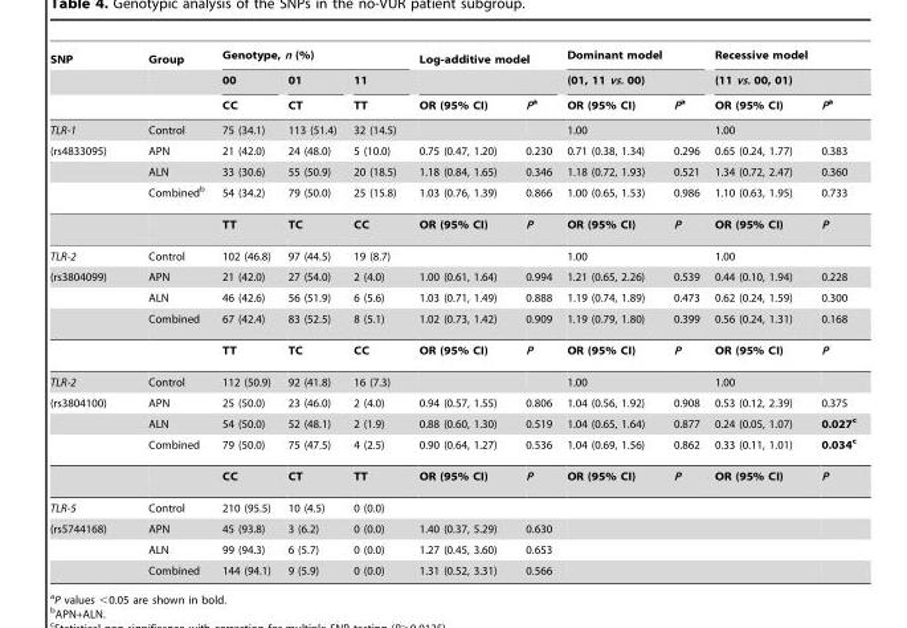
<table><thead><tr><td rowspan="3">SNP</td><td rowspan="3">Group</td><td colspan="3">Genotype, n (%)</td><td colspan="2">Log-additive model</td><td rowspan="2" colspan="2">Dominant model (01, 11 vs. 00)</td><td rowspan="2" colspan="2">Recessive model (11 vs. 00, 01)</td></tr><tr><td rowspan="2">00 CC</td><td rowspan="2">01 CT</td><td rowspan="2">11 TT</td><td rowspan="2">OR (95% CI)</td><td rowspan="2">Pa</td></tr><tr><td>OR (95% CI)</td><td>Pa</td><td>OR (95% CI)</td><td>Pa</td></tr></thead><tbody><tr><td>TLR-1</td><td>Control</td><td>75 (34.1)</td><td>113 (51.4)</td><td>32 (14.5)</td><td></td><td></td><td>1.00</td><td></td><td>1.00</td><td></td></tr><tr><td rowspan="4">(rs4833095)</td><td>APN</td><td>21 (42.0)</td><td>24 (48.0)</td><td>5 (10.0)</td><td>0.75 (0.47, 1.20)</td><td>0.230</td><td>0.71 (0.38, 1.34)</td><td>0.296</td><td>0.65 (0.24, 1.77)</td><td>0.383</td></tr><tr><td>ALN</td><td>33 (30.6)</td><td>55 (50.9)</td><td>20 (18.5)</td><td>1.18 (0.84, 1.65)</td><td>0.346</td><td>1.18 (0.72, 1.93)</td><td>0.521</td><td>1.34 (0.72, 2.47)</td><td>0.360</td></tr><tr><td>Combined<sup>b</sup></td><td>54 (34.2)</td><td>79 (50.0)</td><td>25 (15.8)</td><td>1.03 (0.76, 1.39)</td><td>0.866</td><td>1.00 (0.65, 1.53)</td><td>0.986</td><td>1.10 (0.63, 1.95)</td><td>0.733</td></tr><tr><td></td><td>TT</td><td>TC</td><td>CC</td><td>OR (95% CI)</td><td>P</td><td>OR (95% CI)</td><td>P</td><td>OR (95% CI)</td><td>P</td></tr><tr><td>TLR-2</td><td>Control</td><td>102 (46.8)</td><td>97 (44.5)</td><td>19 (8.7)</td><td></td><td></td><td>1.00</td><td></td><td>1.00</td><td></td></tr><tr><td rowspan="4">(rs3804099)</td><td>APN</td><td>21 (42.0)</td><td>27 (54.0)</td><td>2 (4.0)</td><td>1.00 (0.61, 1.64)</td><td>0.994</td><td>1.21 (0.65, 2.26)</td><td>0.539</td><td>0.44 (0.10, 1.94)</td><td>0.228</td></tr><tr><td>ALN</td><td>46 (42.6)</td><td>56 (51.9)</td><td>6 (5.6)</td><td>1.03 (0.71, 1.49)</td><td>0.888</td><td>1.19 (0.74, 1.89)</td><td>0.473</td><td>0.62 (0.24, 1.59)</td><td>0.300</td></tr><tr><td>Combined</td><td>67 (42.4)</td><td>83 (52.5)</td><td>8 (5.1)</td><td>1.02 (0.73, 1.42)</td><td>0.909</td><td>1.19 (0.79, 1.80)</td><td>0.399</td><td>0.56 (0.24, 1.31)</td><td>0.168</td></tr><tr><td></td><td>TT</td><td>TC</td><td>CC</td><td>OR (95% CI)</td><td>P</td><td>OR (95% CI)</td><td>P</td><td>OR (95% CI)</td><td>P</td></tr><tr><td>TLR-2</td><td>Control</td><td>112 (50.9)</td><td>92 (41.8)</td><td>16 (7.3)</td><td></td><td></td><td>1.00</td><td></td><td>1.00</td><td></td></tr><tr><td rowspan="4">(rs3804100)</td><td>APN</td><td>25 (50.0)</td><td>23 (46.0)</td><td>2 (4.0)</td><td>0.94 (0.57, 1.55)</td><td>0.806</td><td>1.04 (0.56, 1.92)</td><td>0.908</td><td>0.53 (0.12, 2.39)</td><td>0.375</td></tr><tr><td>ALN</td><td>54 (50.0)</td><td>52 (48.1)</td><td>2 (1.9)</td><td>0.88 (0.60, 1.30)</td><td>0.519</td><td>1.04 (0.65, 1.64)</td><td>0.877</td><td>0.24 (0.05, 1.07)</td><td>0.027c</td></tr><tr><td>Combined</td><td>79 (50.0)</td><td>75 (47.5)</td><td>4 (2.5)</td><td>0.90 (0.64, 1.27)</td><td>0.536</td><td>1.04 (0.69, 1.56)</td><td>0.862</td><td>0.33 (0.11, 1.01)</td><td>0.034c</td></tr><tr><td></td><td>CC</td><td>CT</td><td>TT</td><td>OR (95% CI)</td><td>P</td><td>OR (95% CI)</td><td>P</td><td>OR (95% CI)</td><td>P</td></tr><tr><td>TLR-5</td><td>Control</td><td>210 (95.5)</td><td>10 (4.5)</td><td>0 (0.0)</td><td></td><td></td><td></td><td></td><td></td><td></td></tr><tr><td rowspan="3">(rs5744168)</td><td>APN</td><td>45 (93.8)</td><td>3 (6.2)</td><td>0 (0.0)</td><td>1.40 (0.37, 5.29)</td><td>0.630</td><td></td><td></td><td></td><td></td></tr><tr><td>ALN</td><td>99 (94.3)</td><td>6 (5.7)</td><td>0 (0.0)</td><td>1.27 (0.45, 3.60)</td><td>0.653</td><td></td><td></td><td></td><td></td></tr><tr><td>Combined</td><td>144 (94.1)</td><td>9 (5.9)</td><td>0 (0.0)</td><td>1.31 (0.52, 3.31)</td><td>0.566</td><td></td><td></td><td></td><td></td></tr></tbody></table>